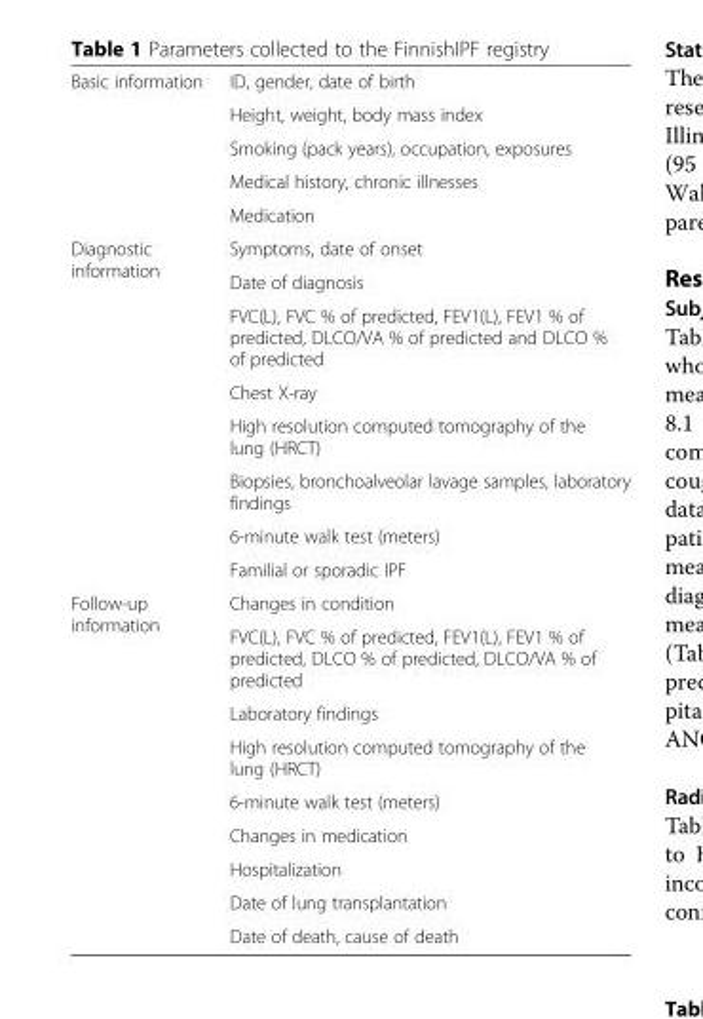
<table><tbody><tr><td rowspan="5">Basic information</td><td>ID, gender, date of birth</td></tr><tr><td>Height, weight, body mass index</td></tr><tr><td>Smoking (pack years), occupation, exposures</td></tr><tr><td>Medical history, chronic illnesses</td></tr><tr><td>Medication</td></tr><tr><td rowspan="8">Diagnostic information</td><td>Symptoms, date of onset</td></tr><tr><td>Date of diagnosis</td></tr><tr><td>FVC(L), FVC % of predicted, FEV1(L), FEV1 % of predicted, DLCO/VA % of predicted and DLCO % of predicted</td></tr><tr><td>Chest X-ray</td></tr><tr><td>High resolution computed tomography of the lung (HRCT)</td></tr><tr><td>Biopsies, bronchoalveolar lavage samples, laboratory findings</td></tr><tr><td>6-minute walk test (meters)</td></tr><tr><td>Familial or sporadic IPF</td></tr><tr><td rowspan="9">Follow-up information</td><td>Changes in condition</td></tr><tr><td>FVC(L), FVC % of predicted, FEV1(L), FEV1 % of predicted, DLCO % of predicted, DLCO/VA % of predicted</td></tr><tr><td>Laboratory findings</td></tr><tr><td>High resolution computed tomography of the lung (HRCT)</td></tr><tr><td>6-minute walk test (meters)</td></tr><tr><td>Changes in medication</td></tr><tr><td>Hospitalization</td></tr><tr><td>Date of lung transplantation</td></tr><tr><td>Date of death, cause of death</td></tr></tbody></table>